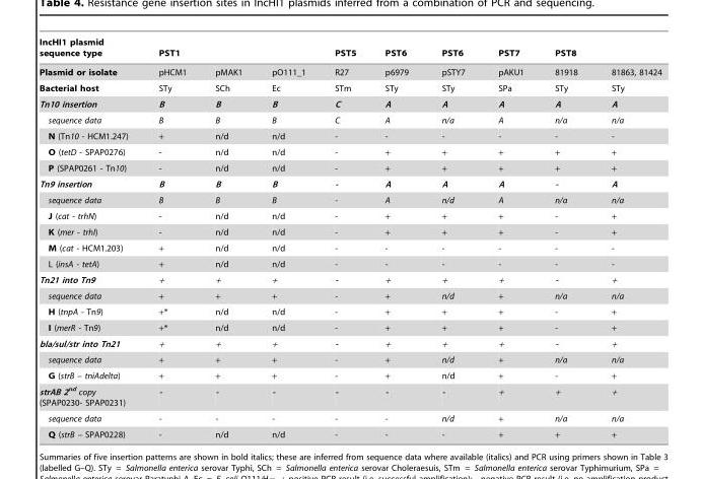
<table><thead><tr><td rowspan="2">IncHI1 plasmid sequence type Plasmid or isolate</td><td colspan="3">PST1</td><td rowspan="2">PST5 R27</td><td rowspan="2">PST6 p6979</td><td rowspan="2">PST6 pSTY7</td><td rowspan="2">PST7 pAKU1</td><td colspan="2">PST8</td></tr><tr><td>pHCM1</td><td>pMAK1</td><td>pO111_1</td><td>81918</td><td>81863, 81424</td></tr></thead><tbody><tr><td>Bacterial host</td><td>STy</td><td>SCh</td><td>Ec</td><td>STm</td><td>STy</td><td>STy</td><td>SPa</td><td>STy</td><td>STy</td></tr><tr><td>Tn10 insertion</td><td>B</td><td>B</td><td>B</td><td>C</td><td>A</td><td>A</td><td>A</td><td>A</td><td>A</td></tr><tr><td>sequence data</td><td>B</td><td>B</td><td>B</td><td>C</td><td>A</td><td>n/a</td><td>A</td><td>n/a</td><td>n/a</td></tr><tr><td>N (Tn10 - HCM1.247)</td><td>+</td><td>n/d</td><td>n/d</td><td>-</td><td>-</td><td>-</td><td>-</td><td>-</td><td>-</td></tr><tr><td>O (tetD - SPAP0276)</td><td>-</td><td>n/d</td><td>n/d</td><td>-</td><td>+</td><td>+</td><td>+</td><td>+</td><td>+</td></tr><tr><td>P (SPAP0261 - Tn10)</td><td>-</td><td>n/d</td><td>n/d</td><td>-</td><td>+</td><td>+</td><td>+</td><td>+</td><td>+</td></tr><tr><td>Tn9 insertion</td><td>B</td><td>B</td><td>B</td><td>-</td><td>A</td><td>A</td><td>A</td><td>-</td><td>A</td></tr><tr><td>sequence data</td><td>B</td><td>B</td><td>B</td><td>-</td><td>A</td><td>n/d</td><td>A</td><td>n/a</td><td>n/a</td></tr><tr><td>J (cat - trhN)</td><td>-</td><td>n/d</td><td>n/d</td><td>-</td><td>+</td><td>+</td><td>+</td><td>-</td><td>+</td></tr><tr><td>K (mer - trhI)</td><td>-</td><td>n/d</td><td>n/d</td><td>-</td><td>+</td><td>+</td><td>+</td><td>-</td><td>+</td></tr><tr><td>M (cat - HCM1.203)</td><td>+</td><td>n/d</td><td>n/d</td><td>-</td><td>-</td><td>-</td><td>-</td><td>-</td><td>-</td></tr><tr><td>L (insA - tetA)</td><td>+</td><td>n/d</td><td>n/d</td><td>-</td><td>-</td><td>-</td><td>-</td><td>-</td><td>-</td></tr><tr><td>Tn21 into Tn9</td><td>+</td><td>+</td><td>+</td><td>-</td><td>+</td><td>+</td><td>+</td><td>-</td><td>+</td></tr><tr><td>sequence data</td><td>+</td><td>+</td><td>+</td><td>-</td><td>+</td><td>n/d</td><td>+</td><td>n/a</td><td>n/a</td></tr><tr><td>H (tnpA - Tn9)</td><td>+*</td><td>n/d</td><td>n/d</td><td>-</td><td>+</td><td>+</td><td>+</td><td>-</td><td>+</td></tr><tr><td>I (merR - Tn9)</td><td>+*</td><td>n/d</td><td>n/d</td><td>-</td><td>+</td><td>+</td><td>+</td><td>-</td><td>+</td></tr><tr><td>bla/sul/str into Tn21</td><td>+</td><td>+</td><td>+</td><td>-</td><td>+</td><td>+</td><td>+</td><td>-</td><td>+</td></tr><tr><td>sequence data</td><td>+</td><td>+</td><td>+</td><td>-</td><td>+</td><td>n/d</td><td>+</td><td>n/a</td><td>n/a</td></tr><tr><td>G (strB – tniAdelta)</td><td>+</td><td>+</td><td>+</td><td>-</td><td>+</td><td>n/d</td><td>+</td><td>-</td><td>+</td></tr><tr><td>strAB 2<sup>nd</sup> copy (SPAP0230- SPAP0231)</td><td>-</td><td>-</td><td>-</td><td>-</td><td>-</td><td>-</td><td>+</td><td>+</td><td>+</td></tr><tr><td>sequence data</td><td>-</td><td>-</td><td>-</td><td>-</td><td>-</td><td>n/d</td><td>+</td><td>n/a</td><td>n/a</td></tr><tr><td>Q (strB – SPAP0228)</td><td>-</td><td>n/d</td><td>n/d</td><td>-</td><td>-</td><td>-</td><td>+</td><td>+</td><td>+</td></tr></tbody></table>